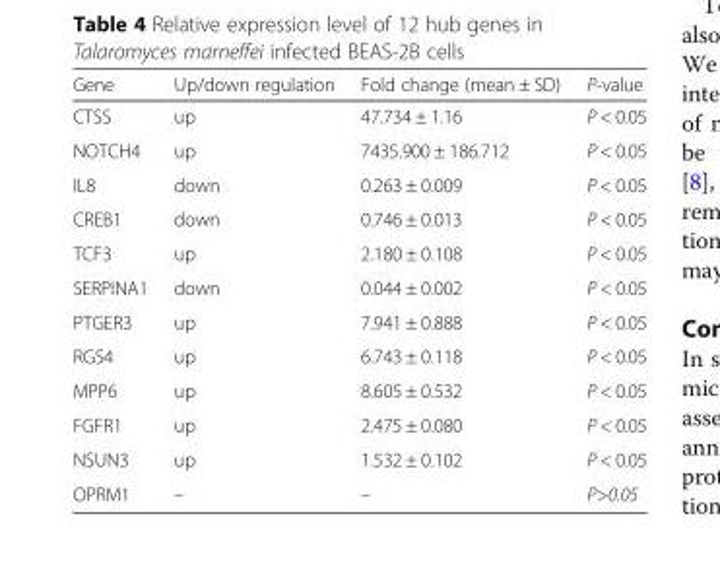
<table><thead><tr><td>Gene</td><td>Up/down regulation</td><td>Fold change (mean ± SD)</td><td>P-value</td></tr></thead><tbody><tr><td>CTSS</td><td>up</td><td>47.734 ± 1.16</td><td>P &lt; 0.05</td></tr><tr><td>NOTCH4</td><td>up</td><td>7435.900 ± 186.712</td><td>P &lt; 0.05</td></tr><tr><td>IL8</td><td>down</td><td>0.263 ± 0.009</td><td>P &lt; 0.05</td></tr><tr><td>CREB1</td><td>down</td><td>0.746 ± 0.013</td><td>P &lt; 0.05</td></tr><tr><td>TCF3</td><td>up</td><td>2.180 ± 0.108</td><td>P &lt; 0.05</td></tr><tr><td>SERPINA1</td><td>down</td><td>0.044 ± 0.002</td><td>P &lt; 0.05</td></tr><tr><td>PTGER3</td><td>up</td><td>7.941 ± 0.888</td><td>P &lt; 0.05</td></tr><tr><td>RGS4</td><td>up</td><td>6.743 ± 0.118</td><td>P &lt; 0.05</td></tr><tr><td>MPP6</td><td>up</td><td>8.605 ± 0.532</td><td>P &lt; 0.05</td></tr><tr><td>FGFR1</td><td>up</td><td>2.475 ± 0.080</td><td>P &lt; 0.05</td></tr><tr><td>NSUN3</td><td>up</td><td>1.532 ± 0.102</td><td>P &lt; 0.05</td></tr><tr><td>OPRM1</td><td>–</td><td>–</td><td>P&gt;0.05</td></tr></tbody></table>